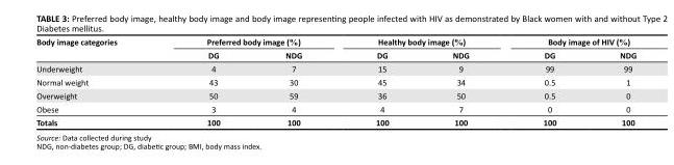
<table><thead><tr><td rowspan="2">Body image categories</td><td colspan="2">Preferred body image (%)</td><td colspan="2">Healthy body image (%)</td><td colspan="2">Body image of HIV (%)</td></tr><tr><td>DG</td><td>NDG</td><td>DG</td><td>NDG</td><td>DG</td><td>NDG</td></tr></thead><tbody><tr><td>Underweight</td><td>4</td><td>7</td><td>15</td><td>9</td><td>99</td><td>99</td></tr><tr><td>Normal weight</td><td>43</td><td>30</td><td>45</td><td>34</td><td>0.5</td><td>1</td></tr><tr><td>Overweight</td><td>50</td><td>59</td><td>36</td><td>50</td><td>0.5</td><td>0</td></tr><tr><td>Obese</td><td>3</td><td>4</td><td>4</td><td>7</td><td>0</td><td>0</td></tr><tr><td>Totals</td><td>100</td><td>100</td><td>100</td><td>100</td><td>100</td><td>100</td></tr></tbody></table>